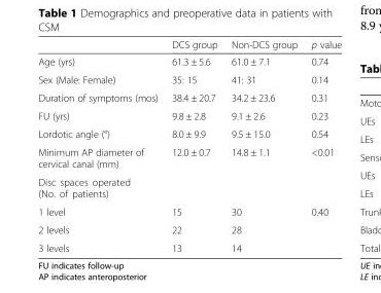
<table><thead><tr><td></td><td>DCS group</td><td>Non-DCS group</td><td>p value</td></tr></thead><tbody><tr><td>Age (yrs)</td><td>61.3 ± 5.6</td><td>61.0 ± 7.1</td><td>0.74</td></tr><tr><td>Sex (Male: Female)</td><td>35: 15</td><td>41: 31</td><td>0.14</td></tr><tr><td>Duration of symptoms (mos)</td><td>38.4 ± 20.7</td><td>34.2 ± 23.6</td><td>0.31</td></tr><tr><td>FU (yrs)</td><td>9.8 ± 2.8</td><td>9.1 ± 2.6</td><td>0.23</td></tr><tr><td>Lordotic angle (°)</td><td>8.0 ± 9.9</td><td>9.5 ± 15.0</td><td>0.54</td></tr><tr><td>Minimum AP diameter of cervical canal (mm)</td><td>12.0 ± 0.7</td><td>14.8 ± 1.1</td><td>&lt;0.01</td></tr><tr><td colspan="4">Disc spaces operated (No. of patients)</td></tr><tr><td>1 level</td><td>15</td><td>30</td><td>0.40</td></tr><tr><td>2 levels</td><td>22</td><td>28</td><td></td></tr><tr><td>3 levels</td><td>13</td><td>14</td><td></td></tr></tbody></table>